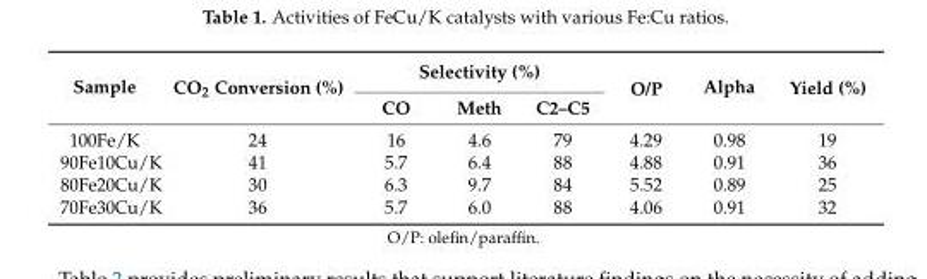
<table><thead><tr><td rowspan="2">Sample</td><td rowspan="2">CO<sub>2</sub> Conversion (%)</td><td colspan="3">Selectivity (%)</td><td rowspan="2">O/P</td><td rowspan="2">Alpha</td><td rowspan="2">Yield (%)</td></tr><tr><td>CO</td><td>Meth</td><td>C2–C5</td></tr></thead><tbody><tr><td>100Fe/K</td><td>24</td><td>16</td><td>4.6</td><td>79</td><td>4.29</td><td>0.98</td><td>19</td></tr><tr><td>90Fe10Cu/K</td><td>41</td><td>5.7</td><td>6.4</td><td>88</td><td>4.88</td><td>0.91</td><td>36</td></tr><tr><td>80Fe20Cu/K</td><td>30</td><td>6.3</td><td>9.7</td><td>84</td><td>5.52</td><td>0.89</td><td>25</td></tr><tr><td>70Fe30Cu/K</td><td>36</td><td>5.7</td><td>6.0</td><td>88</td><td>4.06</td><td>0.91</td><td>32</td></tr></tbody></table>